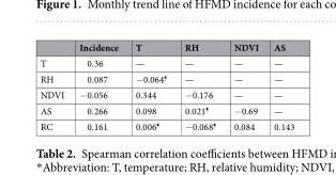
<table><thead><tr><td></td><td>Incidence</td><td>T</td><td>RH</td><td>NDVI</td><td>AS</td></tr></thead><tbody><tr><td>T</td><td>0.36</td><td>—</td><td>—</td><td>—</td><td>—</td></tr><tr><td>RH</td><td>0.087</td><td>−0.064<sup>¶</sup></td><td>—</td><td>—</td><td>—</td></tr><tr><td>NDVI</td><td>−0.056</td><td>0.344</td><td>−0.176</td><td>—</td><td>—</td></tr><tr><td>AS</td><td>0.266</td><td>0.098</td><td>0.021<sup>¶</sup></td><td>−0.69</td><td>—</td></tr><tr><td>RC</td><td>0.161</td><td>0.006<sup>¶</sup></td><td>−0.068<sup>¶</sup></td><td>0.084</td><td>0.143</td></tr></tbody></table>